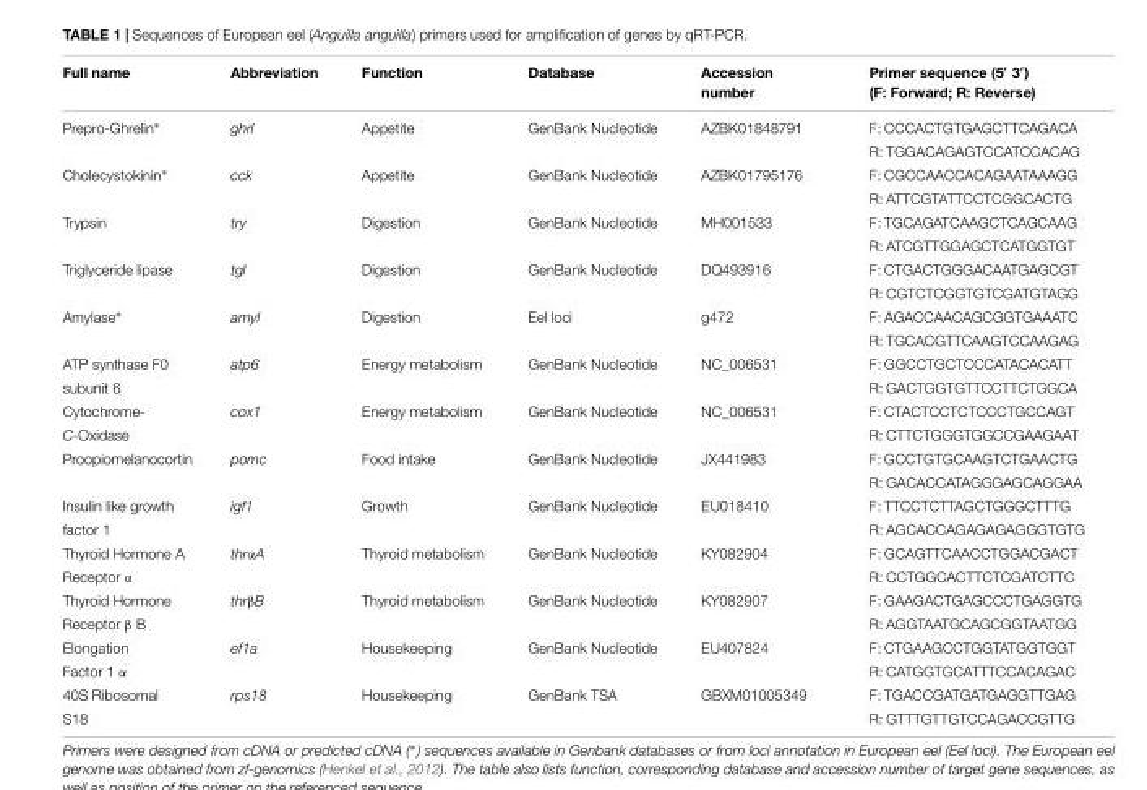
<table><thead><tr><td>Full name</td><td>Abbreviation</td><td>Function</td><td>Database</td><td>Accession number</td><td>Primer sequence (5′ 3′) (F: Forward; R: Reverse)</td></tr></thead><tbody><tr><td rowspan="2">Prepro-Ghrelin∗</td><td>ghrl</td><td>Appetite</td><td>GenBank Nucleotide</td><td>AZBK01848791</td><td>F: CCCACTGTGAGCTTCAGACA</td></tr><tr><td></td><td></td><td></td><td></td><td>R: TGGACAGAGTCCATCCACAG</td></tr><tr><td rowspan="2">Cholecystokinin∗</td><td>cck</td><td>Appetite</td><td>GenBank Nucleotide</td><td>AZBK01795176</td><td>F: CGCCAACCACAGAATAAAGG</td></tr><tr><td></td><td></td><td></td><td></td><td>R: ATTCGTATTCCTCGGCACTG</td></tr><tr><td rowspan="2">Trypsin</td><td>try</td><td>Digestion</td><td>GenBank Nucleotide</td><td>MH001533</td><td>F: TGCAGATCAAGCTCAGCAAG</td></tr><tr><td></td><td></td><td></td><td></td><td>R: ATCGTTGGAGCTCATGGTGT</td></tr><tr><td rowspan="2">Triglyceride lipase</td><td>tgl</td><td>Digestion</td><td>GenBank Nucleotide</td><td>DQ493916</td><td>F: CTGACTGGGACAATGAGCGT</td></tr><tr><td></td><td></td><td></td><td></td><td>R: CGTCTCGGTGTCGATGTAGG</td></tr><tr><td rowspan="2">Amylase∗</td><td>amyl</td><td>Digestion</td><td>Eel loci</td><td>g472</td><td>F: AGACCAACAGCGGTGAAATC</td></tr><tr><td></td><td></td><td></td><td></td><td>R: TGCACGTTCAAGTCCAAGAG</td></tr><tr><td>ATP synthase F0</td><td>atp6</td><td>Energy metabolism</td><td>GenBank Nucleotide</td><td>NC_006531</td><td>F: GGCCTGCTCCCATACACATT</td></tr><tr><td>subunit 6</td><td></td><td></td><td></td><td></td><td>R: GACTGGTGTTCCTTCTGGCA</td></tr><tr><td>Cytochrome-</td><td>cox1</td><td>Energy metabolism</td><td>GenBank Nucleotide</td><td>NC_006531</td><td>F: CTACTCCTCTCCCTGCCAGT</td></tr><tr><td>C-Oxidase</td><td></td><td></td><td></td><td></td><td>R: CTTCTGGGTGGCCGAAGAAT</td></tr><tr><td rowspan="2">Proopiomelanocortin</td><td>pomc</td><td>Food intake</td><td>GenBank Nucleotide</td><td>JX441983</td><td>F: GCCTGTGCAAGTCTGAACTG</td></tr><tr><td></td><td></td><td></td><td></td><td>R: GACACCATAGGGAGCAGGAA</td></tr><tr><td>Insulin like growth</td><td>igf1</td><td>Growth</td><td>GenBank Nucleotide</td><td>EU018410</td><td>F: TTCCTCTTAGCTGGGCTTTG</td></tr><tr><td>factor 1</td><td></td><td></td><td></td><td></td><td>R: AGCACCAGAGAGAGGGTGTG</td></tr><tr><td>Thyroid Hormone A</td><td>thrαA</td><td>Thyroid metabolism</td><td>GenBank Nucleotide</td><td>KY082904</td><td>F: GCAGTTCAACCTGGACGACT</td></tr><tr><td>Receptor α</td><td></td><td></td><td></td><td></td><td>R: CCTGGCACTTCTCGATCTTC</td></tr><tr><td>Thyroid Hormone</td><td>thrβB</td><td>Thyroid metabolism</td><td>GenBank Nucleotide</td><td>KY082907</td><td>F: GAAGACTGAGCCCTGAGGTG</td></tr><tr><td>Receptor β B</td><td></td><td></td><td></td><td></td><td>R: AGGTAATGCAGCGGTAATGG</td></tr><tr><td>Elongation</td><td>ef1a</td><td>Housekeeping</td><td>GenBank Nucleotide</td><td>EU407824</td><td>F: CTGAAGCCTGGTATGGTGGT</td></tr><tr><td>Factor 1 α</td><td></td><td></td><td></td><td></td><td>R: CATGGTGCATTTCCACAGAC</td></tr><tr><td>40S Ribosomal</td><td>rps18</td><td>Housekeeping</td><td>GenBank TSA</td><td>GBXM01005349</td><td>F: TGACCGATGATGAGGTTGAG</td></tr><tr><td>S18</td><td></td><td></td><td></td><td></td><td>R: GTTTGTTGTCCAGACCGTTG</td></tr></tbody></table>